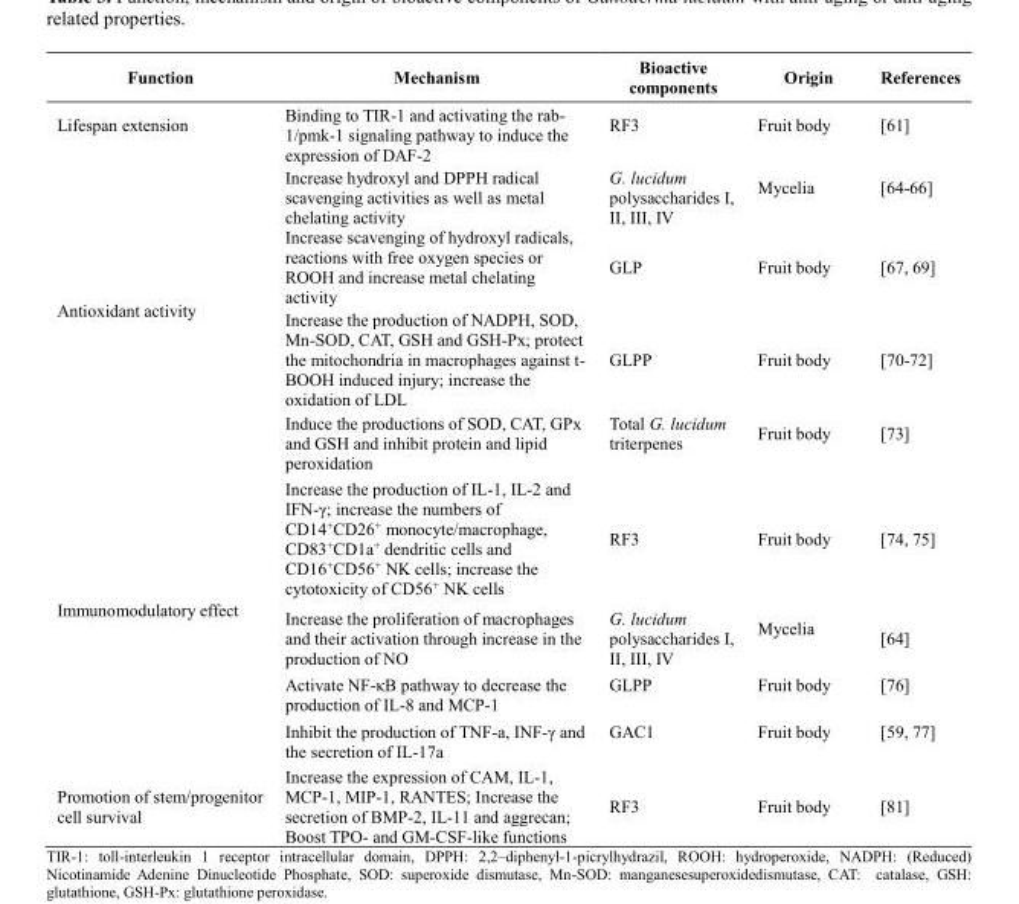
<table><thead><tr><td>Function</td><td>Mechanism</td><td>Bioactive components</td><td>Origin</td><td>References</td></tr></thead><tbody><tr><td>Lifespan extension</td><td>Binding to TIR-1 and activating the rab- 1/pmk-1 signaling pathway to induce the expression of DAF-2</td><td>RF3</td><td>Fruit body</td><td>[61]</td></tr><tr><td rowspan="4">Antioxidant activity</td><td>Increase hydroxyl and DPPH radical scavenging activities as well as metal chelating activity</td><td>G. lucidum polysaccharides I, II, III, IV</td><td>Mycelia</td><td>[64-66]</td></tr><tr><td>Increase scavenging of hydroxyl radicals, reactions with free oxygen species or ROOH and increase metal chelating activity</td><td>GLP</td><td>Fruit body</td><td>[67, 69]</td></tr><tr><td>Increase the production of NADPH, SOD, Mn-SOD, CAT, GSH and GSH-Px; protect the mitochondria in macrophages against t- BOOH induced injury; increase the oxidation of LDL</td><td>GLPP</td><td>Fruit body</td><td>[70-72]</td></tr><tr><td>Induce the productions of SOD, CAT, GPx and GSH and inhibit protein and lipid peroxidation</td><td>Total G. lucidum triterpenes</td><td>Fruit body</td><td>[73]</td></tr><tr><td rowspan="4">Immunomodulatory effect</td><td>Increase the production of IL-1, IL-2 and IFN-γ; increase the numbers of CD14<sup>+</sup>CD26<sup>+</sup> monocyte/macrophage, CD83<sup>+</sup>CD1a<sup>+</sup> dendritic cells and CD16<sup>+</sup>CD56<sup>+</sup> NK cells; increase the cytotoxicity of CD56<sup>+</sup> NK cells</td><td>RF3</td><td>Fruit body</td><td>[74, 75]</td></tr><tr><td>Increase the proliferation of macrophages and their activation through increase in the production of NO</td><td>G. lucidum polysaccharides I, II, III, IV</td><td>Mycelia</td><td>[64]</td></tr><tr><td>Activate NF-κB pathway to decrease the production of IL-8 and MCP-1</td><td>GLPP</td><td>Fruit body</td><td>[76]</td></tr><tr><td>Inhibit the production of TNF-a, INF-γ and the secretion of IL-17a</td><td>GAC1</td><td>Fruit body</td><td>[59, 77]</td></tr><tr><td>Promotion of stem/progenitor cell survival</td><td>Increase the expression of CAM, IL-1, MCP-1, MIP-1, RANTES; Increase the secretion of BMP-2, IL-11 and aggrecan; Boost TPO- and GM-CSF-like functions</td><td>RF3</td><td>Fruit body</td><td>[81]</td></tr></tbody></table>